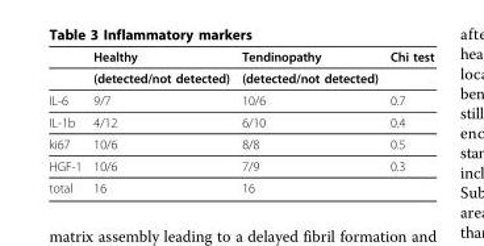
<table><thead><tr><td></td><td>Healthy</td><td>Tendinopathy</td><td>Chi test</td></tr></thead><tbody><tr><td></td><td>(detected/not detected)</td><td>(detected/not detected)</td><td></td></tr><tr><td>IL-6</td><td>9/7</td><td>10/6</td><td>0.7</td></tr><tr><td>IL-1b</td><td>4/12</td><td>6/10</td><td>0.4</td></tr><tr><td>ki67</td><td>10/6</td><td>8/8</td><td>0.5</td></tr><tr><td>HGF-1</td><td>10/6</td><td>7/9</td><td>0.3</td></tr><tr><td>total</td><td>16</td><td>16</td><td></td></tr></tbody></table>